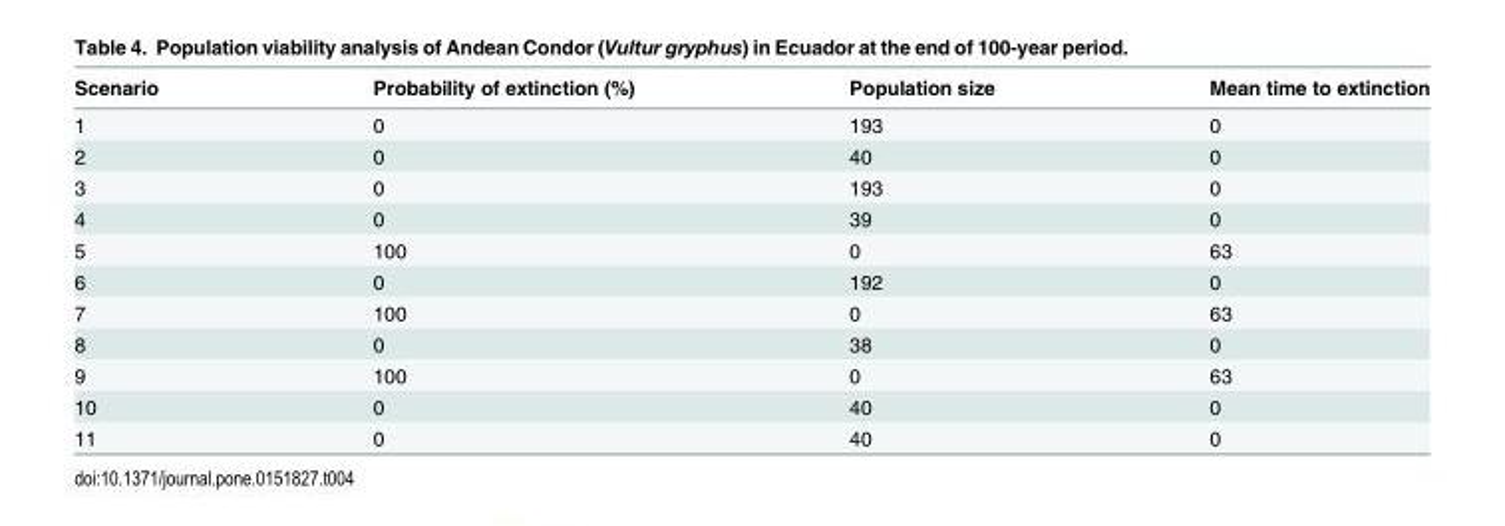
<table><thead><tr><td>Scenario</td><td>Probability of extinction (%)</td><td>Population size</td><td>Mean time to extinction</td></tr></thead><tbody><tr><td>1</td><td>0</td><td>193</td><td>0</td></tr><tr><td>2</td><td>0</td><td>40</td><td>0</td></tr><tr><td>3</td><td>0</td><td>193</td><td>0</td></tr><tr><td>4</td><td>0</td><td>39</td><td>0</td></tr><tr><td>5</td><td>100</td><td>0</td><td>63</td></tr><tr><td>6</td><td>0</td><td>192</td><td>0</td></tr><tr><td>7</td><td>100</td><td>0</td><td>63</td></tr><tr><td>8</td><td>0</td><td>38</td><td>0</td></tr><tr><td>9</td><td>100</td><td>0</td><td>63</td></tr><tr><td>10</td><td>0</td><td>40</td><td>0</td></tr><tr><td>11</td><td>0</td><td>40</td><td>0</td></tr></tbody></table>